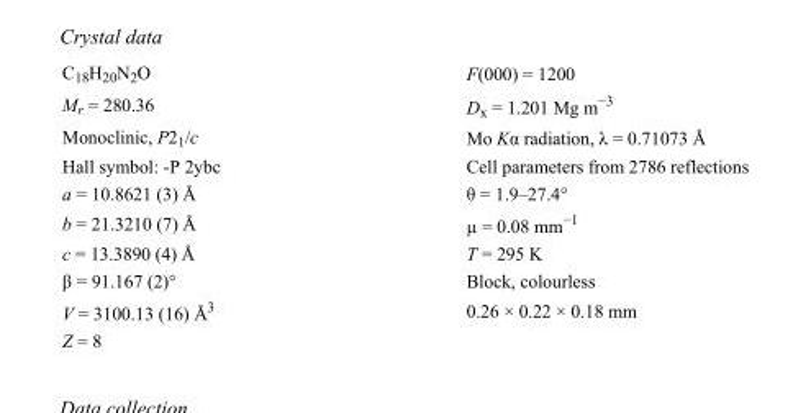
<table><tbody><tr><td>C<sub>18</sub>H<sub>20</sub>N<sub>2</sub>O</td><td>F(000) = 1200</td></tr><tr><td>M<sub>r</sub> = 280.36</td><td>D<sub>x</sub> = 1.201 Mg m<sup>−3</sup></td></tr><tr><td>Monoclinic, P2<sub>1</sub>/c</td><td>Mo Kα radiation, λ = 0.71073 Å</td></tr><tr><td>Hall symbol: -P 2ybc</td><td>Cell parameters from 2786 reflections</td></tr><tr><td>a = 10.8621 (3) Å</td><td>θ = 1.9–27.4°</td></tr><tr><td>b = 21.3210 (7) Å</td><td>µ = 0.08 mm<sup>−1</sup></td></tr><tr><td>c = 13.3890 (4) Å</td><td>T = 295 K</td></tr><tr><td>β = 91.167 (2)°</td><td>Block, colourless</td></tr><tr><td>V = 3100.13 (16) Å<sup>3</sup></td><td>0.26 × 0.22 × 0.18 mm</td></tr><tr><td>Z = 8</td><td></td></tr></tbody></table>